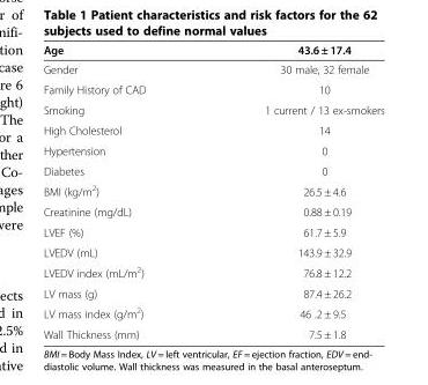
<table><thead><tr><td>Age</td><td>43.6 ± 17.4</td></tr></thead><tbody><tr><td>Gender</td><td>30 male, 32 female</td></tr><tr><td>Family History of CAD</td><td>10</td></tr><tr><td>Smoking</td><td>1 current / 13 ex-smokers</td></tr><tr><td>High Cholesterol</td><td>14</td></tr><tr><td>Hypertension</td><td>0</td></tr><tr><td>Diabetes</td><td>0</td></tr><tr><td>BMI (kg/m<sup>2</sup>)</td><td>26.5 ± 4.6</td></tr><tr><td>Creatinine (mg/dL)</td><td>0.88 ± 0.19</td></tr><tr><td>LVEF (%)</td><td>61.7 ± 5.9</td></tr><tr><td>LVEDV (mL)</td><td>143.9 ± 32.9</td></tr><tr><td>LVEDV index (mL/m<sup>2</sup>)</td><td>76.8 ± 12.2</td></tr><tr><td>LV mass (g)</td><td>87.4 ± 26.2</td></tr><tr><td>LV mass index (g/m<sup>2</sup>)</td><td>46 .2 ± 9.5</td></tr><tr><td>Wall Thickness (mm)</td><td>7.5 ± 1.8</td></tr></tbody></table>